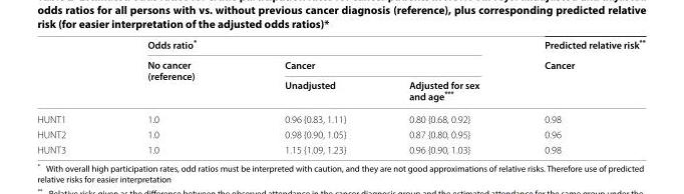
<table><thead><tr><td rowspan="3"></td><td colspan="3">Odds ratio*</td><td rowspan="3">Predicted relative risk** Cancer</td></tr><tr><td rowspan="2">No cancer (reference)</td><td colspan="2">Cancer</td></tr><tr><td>Unadjusted</td><td>Adjusted for sex and age***</td></tr></thead><tbody><tr><td>HUNT1</td><td>1.0</td><td>0.96 {0.83, 1.11}</td><td>0.80 {0.68, 0.92}</td><td>0.98</td></tr><tr><td>HUNT2</td><td>1.0</td><td>0.98 {0.90, 1.05}</td><td>0.87 {0.80, 0.95}</td><td>0.96</td></tr><tr><td>HUNT3</td><td>1.0</td><td>1.15 {1.09, 1.23}</td><td>0.96 {0.90, 1.03}</td><td>0.98</td></tr></tbody></table>